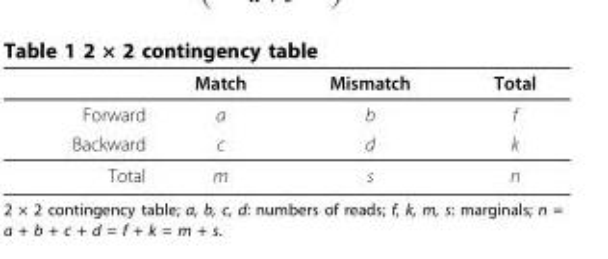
<table><thead><tr><td></td><td>Match</td><td>Mismatch</td><td>Total</td></tr></thead><tbody><tr><td>Forward</td><td>a</td><td>b</td><td>f</td></tr><tr><td>Backward</td><td>c</td><td>d</td><td>k</td></tr><tr><td>Total</td><td>m</td><td>s</td><td>n</td></tr></tbody></table>